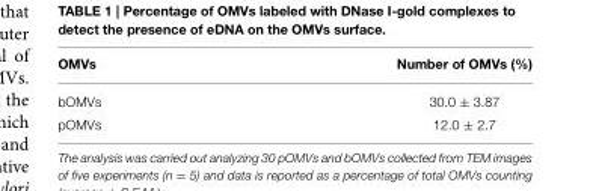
<table><thead><tr><td>OMVs</td><td>Number of OMVs (%)</td></tr></thead><tbody><tr><td>bOMVs</td><td>30.0 ± 3.87</td></tr><tr><td>pOMVs</td><td>12.0 ± 2.7</td></tr></tbody></table>